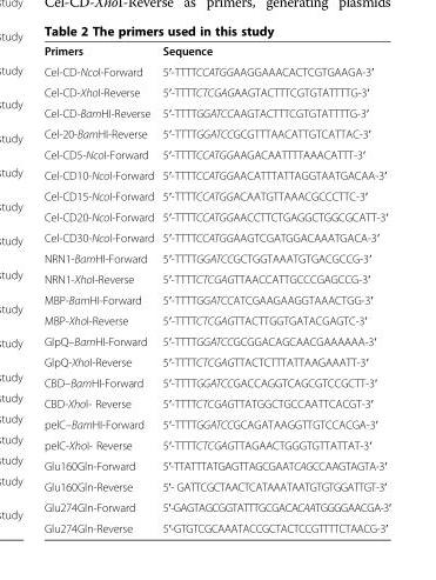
<table><tbody><tr><td>Primers</td><td>Sequence</td></tr><tr><td>Cel-CD-NcoI-Forward</td><td>5′-TTTTCCATGGAAGGAAACACTCGTGAAGA-3′</td></tr><tr><td>Cel-CD-XhoI-Reverse</td><td>5′-TTTTCTCGAGAAGTACTTTCGTGTATTTTG-3′</td></tr><tr><td>Cel-CD-BamHI-Reverse</td><td>5′-TTTTGGATCCAAGTACTTTCGTGTATTTTG-3′</td></tr><tr><td>Cel-20-BamHI-Reverse</td><td>5′-TTTTGGATCCGCGTTTAACATTGTCATTAC-3′</td></tr><tr><td>Cel-CD5-NcoI-Forward</td><td>5′-TTTTCCATGGAAGACAATTTTAAACATTT-3′</td></tr><tr><td>Cel-CD10-NcoI-Forward</td><td>5′-TTTTCCATGGAACATTTATTAGGTAATGACAA-3′</td></tr><tr><td>Cel-CD15-NcoI-Forward</td><td>5′-TTTTCCATGGACAATGTTAAACGCCCTTC-3′</td></tr><tr><td>Cel-CD20-NcoI-Forward</td><td>5′-TTTTCCATGGAACCTTCTGAGGCTGGCGCATT-3′</td></tr><tr><td>Cel-CD30-NcoI-Forward</td><td>5′-TTTTCCATGGAAGTCGATGGACAAATGACA-3′</td></tr><tr><td>NRN1-BamHI-Forward</td><td>5′-TTTTGGATCCGCTGGTAAATGTGACGCCG-3′</td></tr><tr><td>NRN1-XhoI-Reverse</td><td>5′-TTTTCTCGAGTTAACCATTGCCCGAGCCG-3′</td></tr><tr><td>MBP-BamHI-Forward</td><td>5′-TTTTGGATCCATCGAAGAAGGTAAACTGG-3′</td></tr><tr><td>MBP-XhoI-Reverse</td><td>5′-TTTTCTCGAGTTACTTGGTGATACGAGTC-3′</td></tr><tr><td>GlpQ–BamHI-Forward</td><td>5′-TTTTGGATCCGCGGACAGCAACGAAAAAA-3′</td></tr><tr><td>GlpQ-XhoI-Reverse</td><td>5′-TTTTCTCGAGTTACTCTTTATTAAGAAATT-3′</td></tr><tr><td>CBD–BamHI-Forward</td><td>5′-TTTTGGATCCGACCAGGTCAGCGTCCGCTT-3′</td></tr><tr><td>CBD-XhoI- Reverse</td><td>5′-TTTTCTCGAGTTATGGCTGCCAATTCACGT-3′</td></tr><tr><td>pelC–BamHI-Forward</td><td>5′-TTTTGGATCCGCAGATAAGGTTGTCCACGA-3′</td></tr><tr><td>pelC-XhoI- Reverse</td><td>5′-TTTTCTCGAGTTAGAACTGGGTGTTATTAT-3′</td></tr><tr><td>Glu160Gln-Forward</td><td>5′-TTATTTATGAGTTAGCGAATCAGCCAAGTAGTA-3′</td></tr><tr><td>Glu160Gln-Reverse</td><td>5′- GATTCGCTAACTCATAAATAATGTGTGGATTGT-3′</td></tr><tr><td>Glu274Gln-Forward</td><td>5′-GAGTAGCGGTATTTGCGACACAATGGGGAACGA-3′</td></tr><tr><td>Glu274Gln-Reverse</td><td>5′-GTGTCGCAAATACCGCTACTCCGTTTTCTAACG-3′</td></tr></tbody></table>